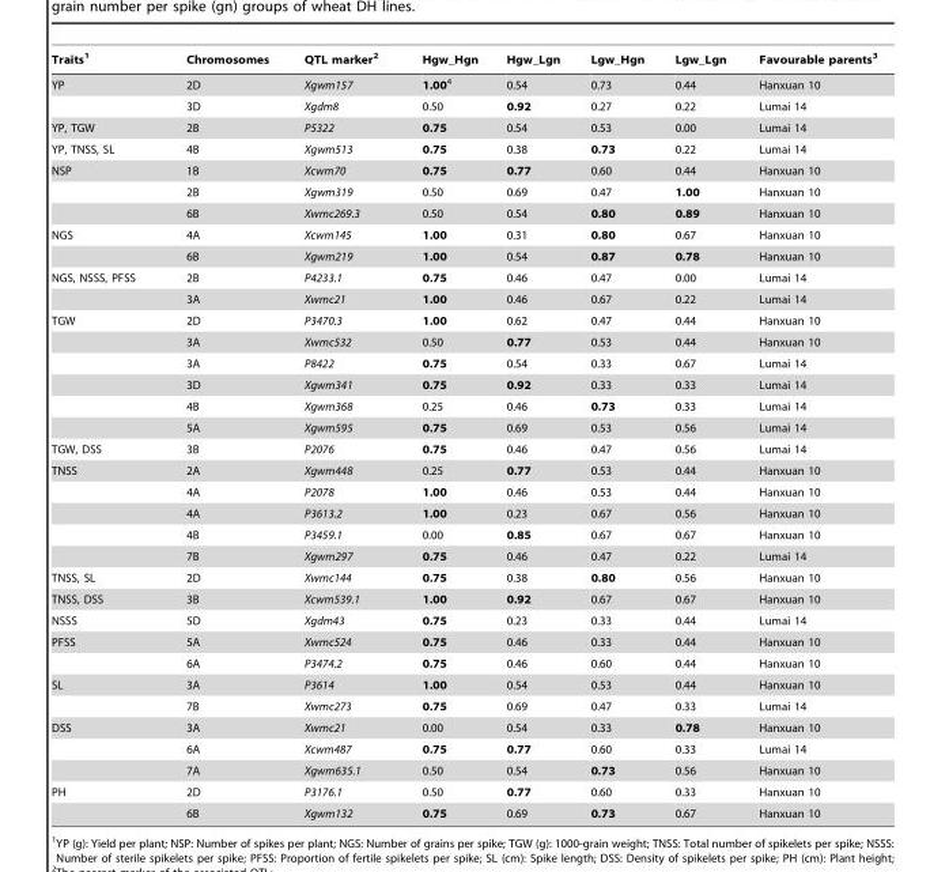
<table><thead><tr><td>Traits<sup>1</sup></td><td>Chromosomes</td><td>QTL marker<sup>2</sup></td><td>Hgw_Hgn</td><td>Hgw_Lgn</td><td>Lgw_Hgn</td><td>Lgw_Lgn</td><td>Favourable parents<sup>3</sup></td></tr></thead><tbody><tr><td rowspan="2">YP</td><td>2D</td><td>Xgwm157</td><td>1.004</td><td>0.54</td><td>0.73</td><td>0.44</td><td>Hanxuan 10</td></tr><tr><td>3D</td><td>Xgdm8</td><td>0.50</td><td>0.92</td><td>0.27</td><td>0.22</td><td>Lumai 14</td></tr><tr><td>YP, TGW</td><td>2B</td><td>P5322</td><td>0.75</td><td>0.54</td><td>0.53</td><td>0.00</td><td>Lumai 14</td></tr><tr><td>YP, TNSS, SL</td><td>4B</td><td>Xgwm513</td><td>0.75</td><td>0.38</td><td>0.73</td><td>0.22</td><td>Lumai 14</td></tr><tr><td rowspan="3">NSP</td><td>1B</td><td>Xcwm70</td><td>0.75</td><td>0.77</td><td>0.60</td><td>0.44</td><td>Hanxuan 10</td></tr><tr><td>2B</td><td>Xgwm319</td><td>0.50</td><td>0.69</td><td>0.47</td><td>1.00</td><td>Hanxuan 10</td></tr><tr><td>6B</td><td>Xwmc269.3</td><td>0.50</td><td>0.54</td><td>0.80</td><td>0.89</td><td>Hanxuan 10</td></tr><tr><td rowspan="2">NGS</td><td>4A</td><td>Xcwm145</td><td>1.00</td><td>0.31</td><td>0.80</td><td>0.67</td><td>Hanxuan 10</td></tr><tr><td>6B</td><td>Xgwm219</td><td>1.00</td><td>0.54</td><td>0.87</td><td>0.78</td><td>Hanxuan 10</td></tr><tr><td rowspan="2">NGS, NSSS, PFSS</td><td>2B</td><td>P4233.1</td><td>0.75</td><td>0.46</td><td>0.47</td><td>0.00</td><td>Lumai 14</td></tr><tr><td>3A</td><td>Xwmc21</td><td>1.00</td><td>0.46</td><td>0.67</td><td>0.22</td><td>Lumai 14</td></tr><tr><td rowspan="6">TGW</td><td>2D</td><td>P3470.3</td><td>1.00</td><td>0.62</td><td>0.47</td><td>0.44</td><td>Hanxuan 10</td></tr><tr><td>3A</td><td>Xwmc532</td><td>0.50</td><td>0.77</td><td>0.53</td><td>0.44</td><td>Hanxuan 10</td></tr><tr><td>3A</td><td>P8422</td><td>0.75</td><td>0.54</td><td>0.33</td><td>0.67</td><td>Lumai 14</td></tr><tr><td>3D</td><td>Xgwm341</td><td>0.75</td><td>0.92</td><td>0.33</td><td>0.33</td><td>Lumai 14</td></tr><tr><td>4B</td><td>Xgwm368</td><td>0.25</td><td>0.46</td><td>0.73</td><td>0.33</td><td>Lumai 14</td></tr><tr><td>5A</td><td>Xgwm595</td><td>0.75</td><td>0.69</td><td>0.53</td><td>0.56</td><td>Lumai 14</td></tr><tr><td>TGW, DSS</td><td>3B</td><td>P2076</td><td>0.75</td><td>0.46</td><td>0.47</td><td>0.56</td><td>Lumai 14</td></tr><tr><td rowspan="5">TNSS</td><td>2A</td><td>Xgwm448</td><td>0.25</td><td>0.77</td><td>0.53</td><td>0.44</td><td>Hanxuan 10</td></tr><tr><td>4A</td><td>P2078</td><td>1.00</td><td>0.46</td><td>0.53</td><td>0.44</td><td>Hanxuan 10</td></tr><tr><td>4A</td><td>P3613.2</td><td>1.00</td><td>0.23</td><td>0.67</td><td>0.56</td><td>Hanxuan 10</td></tr><tr><td>4B</td><td>P3459.1</td><td>0.00</td><td>0.85</td><td>0.67</td><td>0.67</td><td>Hanxuan 10</td></tr><tr><td>7B</td><td>Xgwm297</td><td>0.75</td><td>0.46</td><td>0.47</td><td>0.22</td><td>Lumai 14</td></tr><tr><td>TNSS, SL</td><td>2D</td><td>Xwmc144</td><td>0.75</td><td>0.38</td><td>0.80</td><td>0.56</td><td>Hanxuan 10</td></tr><tr><td>TNSS, DSS</td><td>3B</td><td>Xcwm539.1</td><td>1.00</td><td>0.92</td><td>0.67</td><td>0.67</td><td>Hanxuan 10</td></tr><tr><td>NSSS</td><td>5D</td><td>Xgdm43</td><td>0.75</td><td>0.23</td><td>0.33</td><td>0.44</td><td>Lumai 14</td></tr><tr><td rowspan="2">PFSS</td><td>5A</td><td>Xwmc524</td><td>0.75</td><td>0.46</td><td>0.33</td><td>0.44</td><td>Hanxuan 10</td></tr><tr><td>6A</td><td>P3474.2</td><td>0.75</td><td>0.46</td><td>0.60</td><td>0.44</td><td>Hanxuan 10</td></tr><tr><td rowspan="2">SL</td><td>3A</td><td>P3614</td><td>1.00</td><td>0.54</td><td>0.53</td><td>0.44</td><td>Hanxuan 10</td></tr><tr><td>7B</td><td>Xwmc273</td><td>0.75</td><td>0.69</td><td>0.47</td><td>0.33</td><td>Lumai 14</td></tr><tr><td rowspan="3">DSS</td><td>3A</td><td>Xwmc21</td><td>0.00</td><td>0.54</td><td>0.33</td><td>0.78</td><td>Hanxuan 10</td></tr><tr><td>6A</td><td>Xcwm487</td><td>0.75</td><td>0.77</td><td>0.60</td><td>0.33</td><td>Lumai 14</td></tr><tr><td>7A</td><td>Xgwm635.1</td><td>0.50</td><td>0.54</td><td>0.73</td><td>0.56</td><td>Hanxuan 10</td></tr><tr><td rowspan="2">PH</td><td>2D</td><td>P3176.1</td><td>0.50</td><td>0.77</td><td>0.60</td><td>0.33</td><td>Hanxuan 10</td></tr><tr><td>6B</td><td>Xgwm132</td><td>0.75</td><td>0.69</td><td>0.73</td><td>0.67</td><td>Hanxuan 10</td></tr></tbody></table>